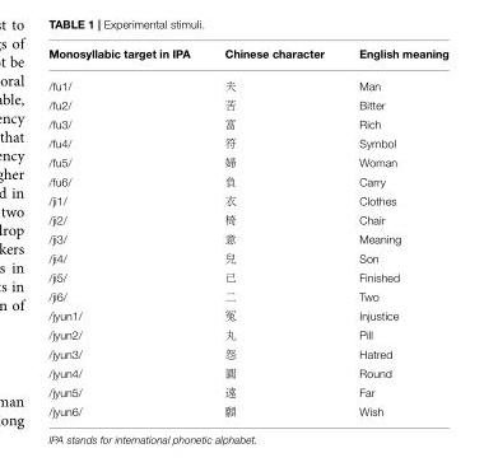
<table><thead><tr><td>Monosyllabic target in IPA</td><td>Chinese character</td><td>English meaning</td></tr></thead><tbody><tr><td>/fu1/</td><td>夫</td><td>Man</td></tr><tr><td>/fu2/</td><td>苦</td><td>Bitter</td></tr><tr><td>/fu3/</td><td>富</td><td>Rich</td></tr><tr><td>/fu4/</td><td>符</td><td>Symbol</td></tr><tr><td>/fu5/</td><td>婦</td><td>Woman</td></tr><tr><td>/fu6/</td><td>負</td><td>Carry</td></tr><tr><td>/ji1/</td><td>衣</td><td>Clothes</td></tr><tr><td>/ji2/</td><td>椅</td><td>Chair</td></tr><tr><td>/ji3/</td><td>意</td><td>Meaning</td></tr><tr><td>/ji4/</td><td>兒</td><td>Son</td></tr><tr><td>/ji5/</td><td>已</td><td>Finished</td></tr><tr><td>/ji6/</td><td>二</td><td>Two</td></tr><tr><td>/jyun1/</td><td>冤</td><td>Injustice</td></tr><tr><td>/jyun2/</td><td>丸</td><td>Pill</td></tr><tr><td>/jyun3/</td><td>怨</td><td>Hatred</td></tr><tr><td>/jyun4/</td><td>圓</td><td>Round</td></tr><tr><td>/jyun5/</td><td>遠</td><td>Far</td></tr><tr><td>/jyun6/</td><td>願</td><td>Wish</td></tr></tbody></table>